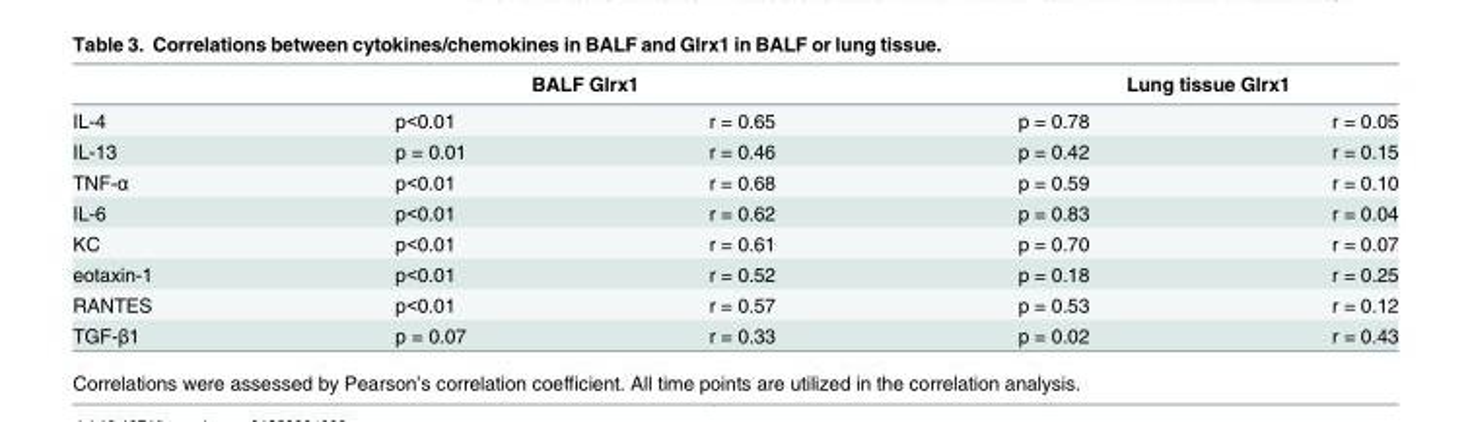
<table><thead><tr><td rowspan="2">IL-4</td><td colspan="2">BALF Glrx1</td><td colspan="2">Lung tissue Glrx1</td></tr><tr><td>p&lt;0.01</td><td>r = 0.65</td><td>p = 0.78</td><td>r = 0.05</td></tr></thead><tbody><tr><td>IL-13</td><td>p = 0.01</td><td>r = 0.46</td><td>p = 0.42</td><td>r = 0.15</td></tr><tr><td>TNF-α</td><td>p&lt;0.01</td><td>r = 0.68</td><td>p = 0.59</td><td>r = 0.10</td></tr><tr><td>IL-6</td><td>p&lt;0.01</td><td>r = 0.62</td><td>p = 0.83</td><td>r = 0.04</td></tr><tr><td>KC</td><td>p&lt;0.01</td><td>r = 0.61</td><td>p = 0.70</td><td>r = 0.07</td></tr><tr><td>eotaxin-1</td><td>p&lt;0.01</td><td>r = 0.52</td><td>p = 0.18</td><td>r = 0.25</td></tr><tr><td>RANTES</td><td>p&lt;0.01</td><td>r = 0.57</td><td>p = 0.53</td><td>r = 0.12</td></tr><tr><td>TGF-β1</td><td>p = 0.07</td><td>r = 0.33</td><td>p = 0.02</td><td>r = 0.43</td></tr></tbody></table>